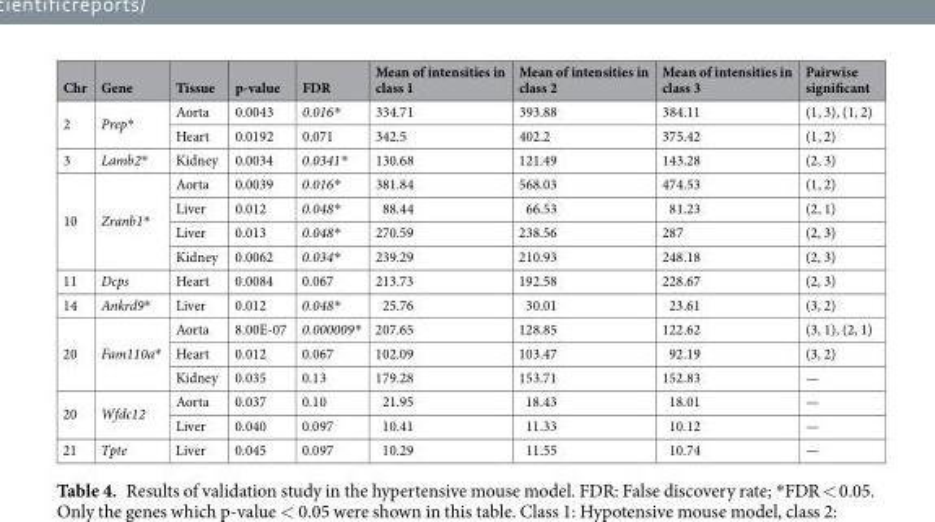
<table><thead><tr><td>Chr</td><td>Gene</td><td>Tissue</td><td>p-value</td><td>FDR</td><td>Mean of intensities in class 1</td><td>Mean of intensities in class 2</td><td>Mean of intensities in class 3</td><td>Pairwise significant</td></tr></thead><tbody><tr><td rowspan="2">2</td><td rowspan="2">Prep*</td><td>Aorta</td><td>0.0043</td><td>0.016*</td><td>334.71</td><td>393.88</td><td>384.11</td><td>(1, 3), (1, 2)</td></tr><tr><td>Heart</td><td>0.0192</td><td>0.071</td><td>342.5</td><td>402.2</td><td>375.42</td><td>(1, 2)</td></tr><tr><td>3</td><td>Lamb2*</td><td>Kidney</td><td>0.0034</td><td>0.0341*</td><td>130.68</td><td>121.49</td><td>143.28</td><td>(2, 3)</td></tr><tr><td rowspan="4">10</td><td rowspan="4">Zranb1*</td><td>Aorta</td><td>0.0039</td><td>0.016*</td><td>381.84</td><td>568.03</td><td>474.53</td><td>(1, 2)</td></tr><tr><td>Liver</td><td>0.012</td><td>0.048*</td><td>88.44</td><td>66.53</td><td>81.23</td><td>(2, 1)</td></tr><tr><td>Liver</td><td>0.013</td><td>0.048*</td><td>270.59</td><td>238.56</td><td>287</td><td>(2, 3)</td></tr><tr><td>Kidney</td><td>0.0062</td><td>0.034*</td><td>239.29</td><td>210.93</td><td>248.18</td><td>(2, 3)</td></tr><tr><td>11</td><td>Dcps</td><td>Heart</td><td>0.0084</td><td>0.067</td><td>213.73</td><td>192.58</td><td>228.67</td><td>(2, 3)</td></tr><tr><td>14</td><td>Ankrd9*</td><td>Liver</td><td>0.012</td><td>0.048*</td><td>25.76</td><td>30.01</td><td>23.61</td><td>(3, 2)</td></tr><tr><td rowspan="3">20</td><td rowspan="3">Fam110a*</td><td>Aorta</td><td>8.00E-07</td><td>0.000009*</td><td>207.65</td><td>128.85</td><td>122.62</td><td>(3, 1), (2, 1)</td></tr><tr><td>Heart</td><td>0.012</td><td>0.067</td><td>102.09</td><td>103.47</td><td>92.19</td><td>(3, 2)</td></tr><tr><td>Kidney</td><td>0.035</td><td>0.13</td><td>179.28</td><td>153.71</td><td>152.83</td><td>—</td></tr><tr><td rowspan="2">20</td><td rowspan="2">Wfdc12</td><td>Aorta</td><td>0.037</td><td>0.10</td><td>21.95</td><td>18.43</td><td>18.01</td><td>—</td></tr><tr><td>Liver</td><td>0.040</td><td>0.097</td><td>10.41</td><td>11.33</td><td>10.12</td><td>—</td></tr><tr><td>21</td><td>Tpte</td><td>Liver</td><td>0.045</td><td>0.097</td><td>10.29</td><td>11.55</td><td>10.74</td><td>—</td></tr></tbody></table>